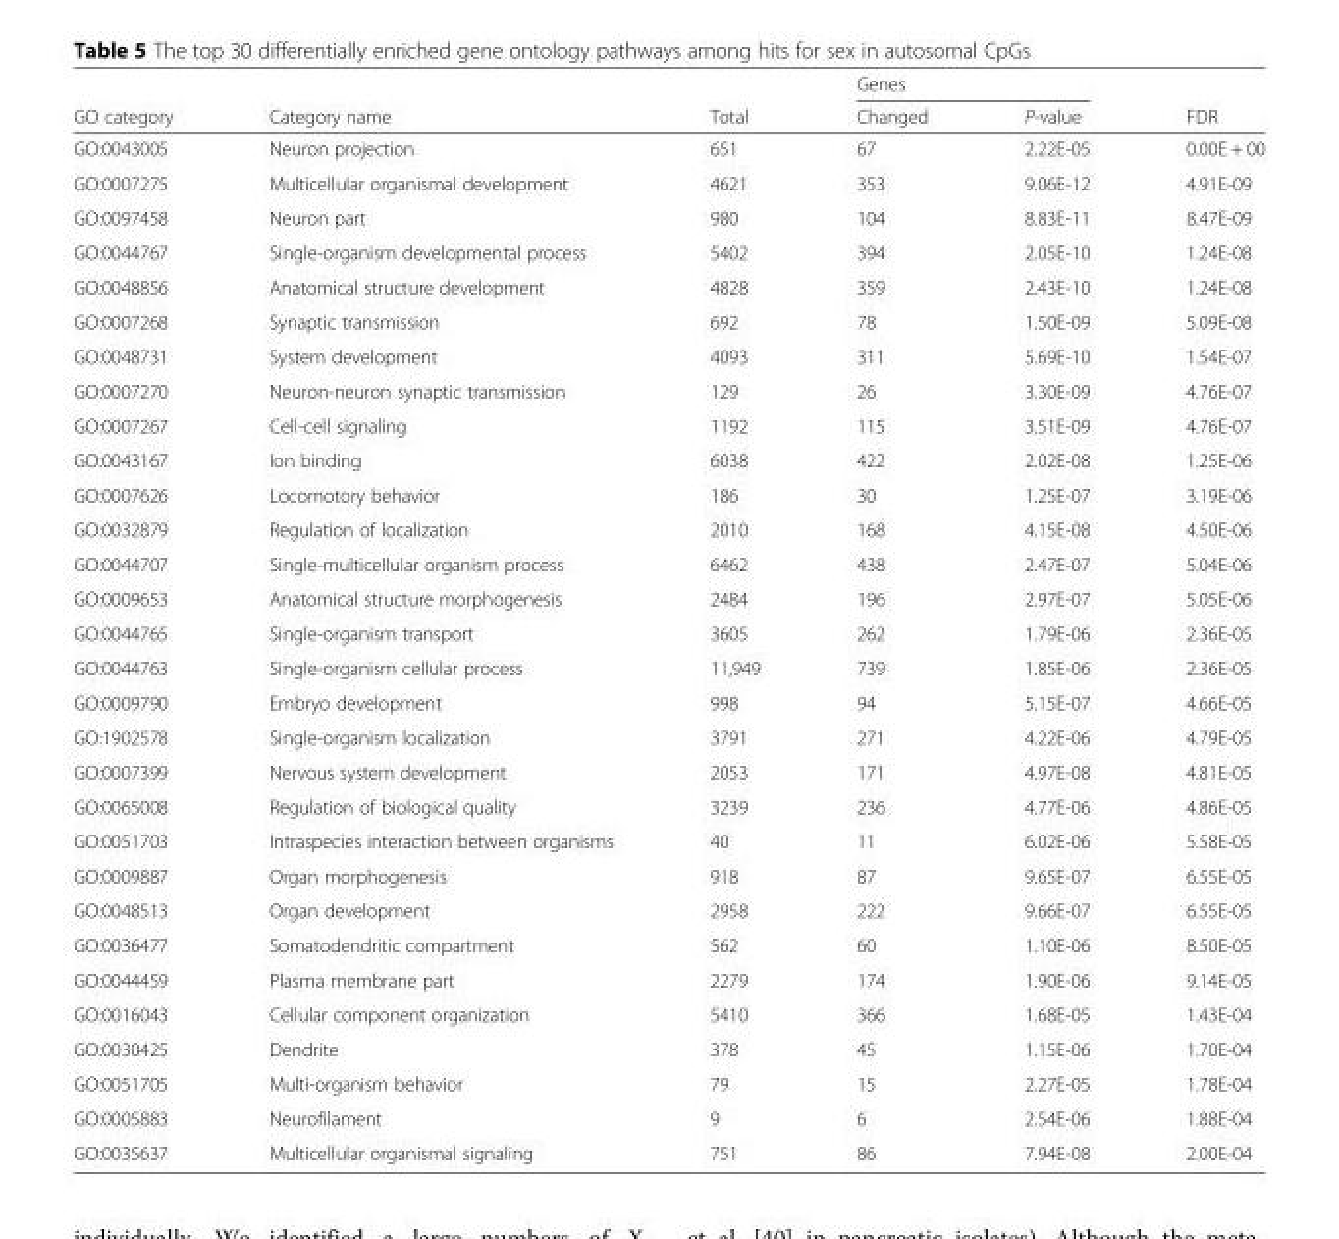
<table><thead><tr><td rowspan="2">GO category</td><td rowspan="2">Category name</td><td rowspan="2">Total</td><td colspan="2">Genes</td><td rowspan="2">FDR</td></tr><tr><td>Changed</td><td>P-value</td></tr></thead><tbody><tr><td>GO:0043005</td><td>Neuron projection</td><td>651</td><td>67</td><td>2.22E-05</td><td>0.00E + 00</td></tr><tr><td>GO:0007275</td><td>Multicellular organismal development</td><td>4621</td><td>353</td><td>9.06E-12</td><td>4.91E-09</td></tr><tr><td>GO:0097458</td><td>Neuron part</td><td>980</td><td>104</td><td>8.83E-11</td><td>8.47E-09</td></tr><tr><td>GO:0044767</td><td>Single-organism developmental process</td><td>5402</td><td>394</td><td>2.05E-10</td><td>1.24E-08</td></tr><tr><td>GO:0048856</td><td>Anatomical structure development</td><td>4828</td><td>359</td><td>2.43E-10</td><td>1.24E-08</td></tr><tr><td>GO:0007268</td><td>Synaptic transmission</td><td>692</td><td>78</td><td>1.50E-09</td><td>5.09E-08</td></tr><tr><td>GO:0048731</td><td>System development</td><td>4093</td><td>311</td><td>5.69E-10</td><td>1.54E-07</td></tr><tr><td>GO:0007270</td><td>Neuron-neuron synaptic transmission</td><td>129</td><td>26</td><td>3.30E-09</td><td>4.76E-07</td></tr><tr><td>GO:0007267</td><td>Cell-cell signaling</td><td>1192</td><td>115</td><td>3.51E-09</td><td>4.76E-07</td></tr><tr><td>GO:0043167</td><td>Ion binding</td><td>6038</td><td>422</td><td>2.02E-08</td><td>1.25E-06</td></tr><tr><td>GO:0007626</td><td>Locomotory behavior</td><td>186</td><td>30</td><td>1.25E-07</td><td>3.19E-06</td></tr><tr><td>GO:0032879</td><td>Regulation of localization</td><td>2010</td><td>168</td><td>4.15E-08</td><td>4.50E-06</td></tr><tr><td>GO:0044707</td><td>Single-multicellular organism process</td><td>6462</td><td>438</td><td>2.47E-07</td><td>5.04E-06</td></tr><tr><td>GO:0009653</td><td>Anatomical structure morphogenesis</td><td>2484</td><td>196</td><td>2.97E-07</td><td>5.05E-06</td></tr><tr><td>GO:0044765</td><td>Single-organism transport</td><td>3605</td><td>262</td><td>1.79E-06</td><td>2.36E-05</td></tr><tr><td>GO:0044763</td><td>Single-organism cellular process</td><td>11,949</td><td>739</td><td>1.85E-06</td><td>2.36E-05</td></tr><tr><td>GO:0009790</td><td>Embryo development</td><td>998</td><td>94</td><td>5.15E-07</td><td>4.66E-05</td></tr><tr><td>GO:1902578</td><td>Single-organism localization</td><td>3791</td><td>271</td><td>4.22E-06</td><td>4.79E-05</td></tr><tr><td>GO:0007399</td><td>Nervous system development</td><td>2053</td><td>171</td><td>4.97E-08</td><td>4.81E-05</td></tr><tr><td>GO:0065008</td><td>Regulation of biological quality</td><td>3239</td><td>236</td><td>4.77E-06</td><td>4.86E-05</td></tr><tr><td>GO:0051703</td><td>Intraspecies interaction between organisms</td><td>40</td><td>11</td><td>6.02E-06</td><td>5.58E-05</td></tr><tr><td>GO:0009887</td><td>Organ morphogenesis</td><td>918</td><td>87</td><td>9.65E-07</td><td>6.55E-05</td></tr><tr><td>GO:0048513</td><td>Organ development</td><td>2958</td><td>222</td><td>9.66E-07</td><td>6.55E-05</td></tr><tr><td>GO:0036477</td><td>Somatodendritic compartment</td><td>562</td><td>60</td><td>1.10E-06</td><td>8.50E-05</td></tr><tr><td>GO:0044459</td><td>Plasma membrane part</td><td>2279</td><td>174</td><td>1.90E-06</td><td>9.14E-05</td></tr><tr><td>GO:0016043</td><td>Cellular component organization</td><td>5410</td><td>366</td><td>1.68E-05</td><td>1.43E-04</td></tr><tr><td>GO:0030425</td><td>Dendrite</td><td>378</td><td>45</td><td>1.15E-06</td><td>1.70E-04</td></tr><tr><td>GO:0051705</td><td>Multi-organism behavior</td><td>79</td><td>15</td><td>2.27E-05</td><td>1.78E-04</td></tr><tr><td>GO:0005883</td><td>Neurofilament</td><td>9</td><td>6</td><td>2.54E-06</td><td>1.88E-04</td></tr><tr><td>GO:0035637</td><td>Multicellular organismal signaling</td><td>751</td><td>86</td><td>7.94E-08</td><td>2.00E-04</td></tr></tbody></table>